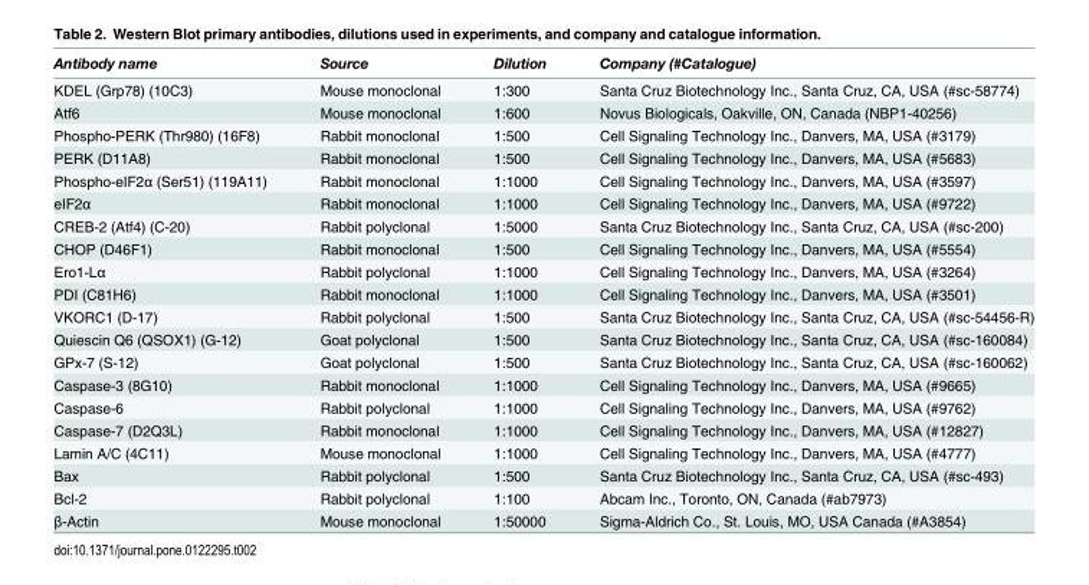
<table><thead><tr><td>Antibody name</td><td>Source</td><td>Dilution</td><td>Company (#Catalogue)</td></tr></thead><tbody><tr><td>KDEL (Grp78) (10C3)</td><td>Mouse monoclonal</td><td>1:300</td><td>Santa Cruz Biotechnology Inc., Santa Cruz, CA, USA (#sc-58774)</td></tr><tr><td>Atf6</td><td>Mouse monoclonal</td><td>1:600</td><td>Novus Biologicals, Oakville, ON, Canada (NBP1-40256)</td></tr><tr><td>Phospho-PERK (Thr980) (16F8)</td><td>Rabbit monoclonal</td><td>1:500</td><td>Cell Signaling Technology Inc., Danvers, MA, USA (#3179)</td></tr><tr><td>PERK (D11A8)</td><td>Rabbit monoclonal</td><td>1:500</td><td>Cell Signaling Technology Inc., Danvers, MA, USA (#5683)</td></tr><tr><td>Phospho-eIF2α (Ser51) (119A11)</td><td>Rabbit monoclonal</td><td>1:1000</td><td>Cell Signaling Technology Inc., Danvers, MA, USA (#3597)</td></tr><tr><td>eIF2α</td><td>Rabbit monoclonal</td><td>1:1000</td><td>Cell Signaling Technology Inc., Danvers, MA, USA (#9722)</td></tr><tr><td>CREB-2 (Atf4) (C-20)</td><td>Rabbit polyclonal</td><td>1:5000</td><td>Santa Cruz Biotechnology Inc., Santa Cruz, CA, USA (#sc-200)</td></tr><tr><td>CHOP (D46F1)</td><td>Rabbit monoclonal</td><td>1:500</td><td>Cell Signaling Technology Inc., Danvers, MA, USA (#5554)</td></tr><tr><td>Ero1-Lα</td><td>Rabbit polyclonal</td><td>1:1000</td><td>Cell Signaling Technology Inc., Danvers, MA, USA (#3264)</td></tr><tr><td>PDI (C81H6)</td><td>Rabbit monoclonal</td><td>1:1000</td><td>Cell Signaling Technology Inc., Danvers, MA, USA (#3501)</td></tr><tr><td>VKORC1 (D-17)</td><td>Rabbit polyclonal</td><td>1:500</td><td>Santa Cruz Biotechnology Inc., Santa Cruz, CA, USA (#sc-54456-R)</td></tr><tr><td>Quiescin Q6 (QSOX1) (G-12)</td><td>Goat polyclonal</td><td>1:500</td><td>Santa Cruz Biotechnology Inc., Santa Cruz, CA, USA (#sc-160084)</td></tr><tr><td>GPx-7 (S-12)</td><td>Goat polyclonal</td><td>1:500</td><td>Santa Cruz Biotechnology Inc., Santa Cruz, CA, USA (#sc-160062)</td></tr><tr><td>Caspase-3 (8G10)</td><td>Rabbit monoclonal</td><td>1:1000</td><td>Cell Signaling Technology Inc., Danvers, MA, USA (#9665)</td></tr><tr><td>Caspase-6</td><td>Rabbit polyclonal</td><td>1:1000</td><td>Cell Signaling Technology Inc., Danvers, MA, USA (#9762)</td></tr><tr><td>Caspase-7 (D2Q3L)</td><td>Rabbit monoclonal</td><td>1:1000</td><td>Cell Signaling Technology Inc., Danvers, MA, USA (#12827)</td></tr><tr><td>Lamin A/C (4C11)</td><td>Mouse monoclonal</td><td>1:1000</td><td>Cell Signaling Technology Inc., Danvers, MA, USA (#4777)</td></tr><tr><td>Bax</td><td>Rabbit polyclonal</td><td>1:500</td><td>Santa Cruz Biotechnology Inc., Santa Cruz, CA, USA (#sc-493)</td></tr><tr><td>Bcl-2</td><td>Rabbit polyclonal</td><td>1:100</td><td>Abcam Inc., Toronto, ON, Canada (#ab7973)</td></tr><tr><td>β-Actin</td><td>Mouse monoclonal</td><td>1:50000</td><td>Sigma-Aldrich Co., St. Louis, MO, USA Canada (#A3854)</td></tr></tbody></table>